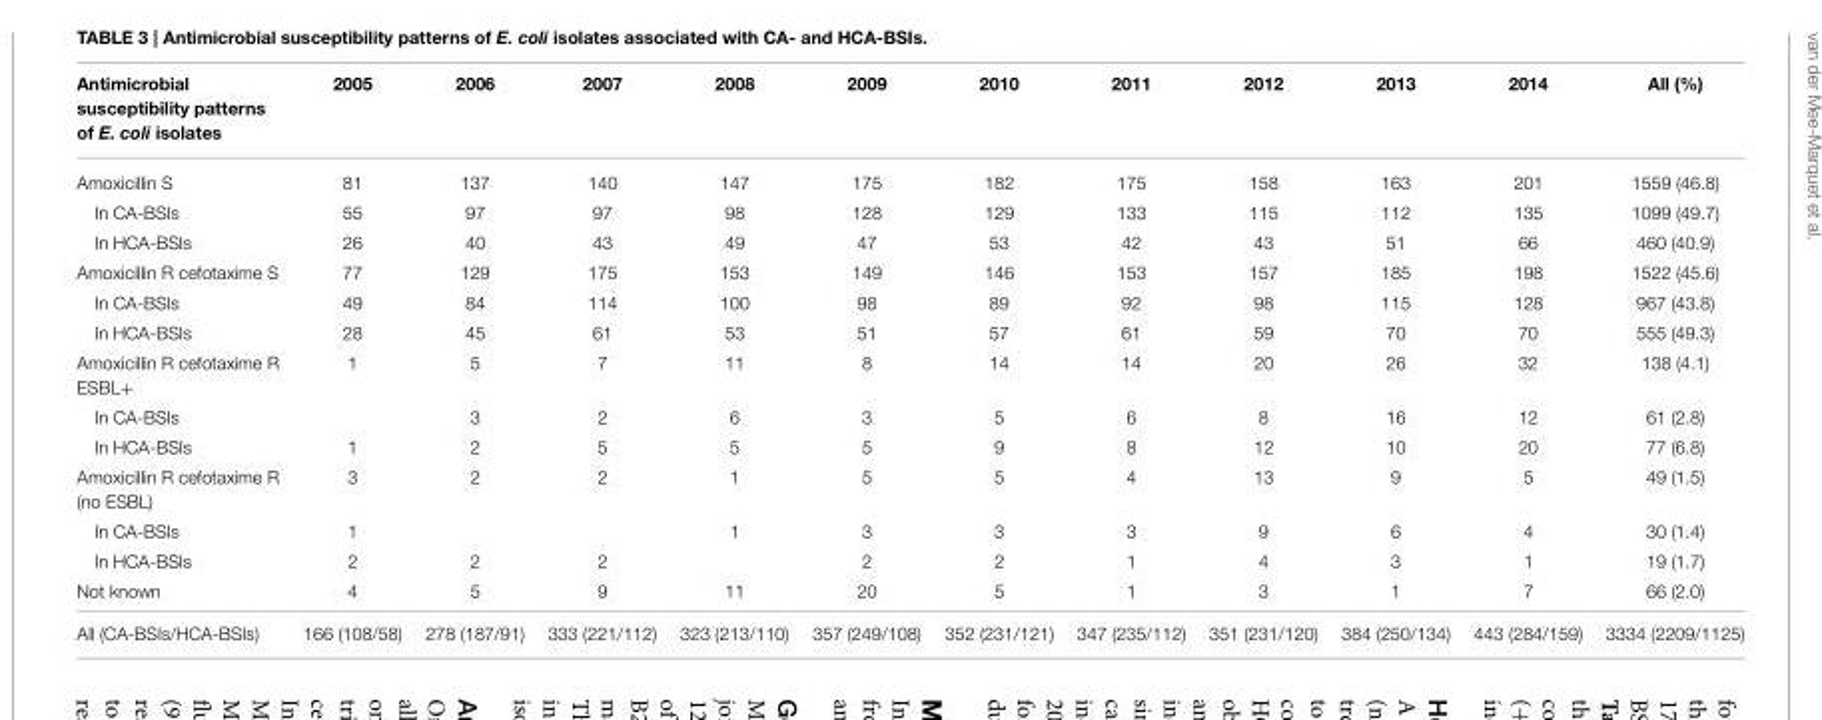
<table><thead><tr><td>Antimicrobial susceptibility patterns of E. coli isolates</td><td>2005</td><td>2006</td><td>2007</td><td>2008</td><td>2009</td><td>2010</td><td>2011</td><td>2012</td><td>2013</td><td>2014</td><td>All (%)</td></tr></thead><tbody><tr><td>Amoxicillin S</td><td>81</td><td>137</td><td>140</td><td>147</td><td>175</td><td>182</td><td>175</td><td>158</td><td>163</td><td>201</td><td>1559 (46.8)</td></tr><tr><td>In CA-BSIs</td><td>55</td><td>97</td><td>97</td><td>98</td><td>128</td><td>129</td><td>133</td><td>115</td><td>112</td><td>135</td><td>1099 (49.7)</td></tr><tr><td>In HCA-BSIs</td><td>26</td><td>40</td><td>43</td><td>49</td><td>47</td><td>53</td><td>42</td><td>43</td><td>51</td><td>66</td><td>460 (40.9)</td></tr><tr><td>Amoxicillin R cefotaxime S</td><td>77</td><td>129</td><td>175</td><td>153</td><td>149</td><td>146</td><td>153</td><td>157</td><td>185</td><td>198</td><td>1522 (45.6)</td></tr><tr><td>In CA-BSIs</td><td>49</td><td>84</td><td>114</td><td>100</td><td>98</td><td>89</td><td>92</td><td>98</td><td>115</td><td>128</td><td>967 (43.8)</td></tr><tr><td>In HCA-BSIs</td><td>28</td><td>45</td><td>61</td><td>53</td><td>51</td><td>57</td><td>61</td><td>59</td><td>70</td><td>70</td><td>555 (49.3)</td></tr><tr><td>Amoxicillin R cefotaxime R ESBL+</td><td>1</td><td>5</td><td>7</td><td>11</td><td>8</td><td>14</td><td>14</td><td>20</td><td>26</td><td>32</td><td>138 (4.1)</td></tr><tr><td>In CA-BSIs</td><td></td><td>3</td><td>2</td><td>6</td><td>3</td><td>5</td><td>6</td><td>8</td><td>16</td><td>12</td><td>61 (2.8)</td></tr><tr><td>In HCA-BSIs</td><td>1</td><td>2</td><td>5</td><td>5</td><td>5</td><td>9</td><td>8</td><td>12</td><td>10</td><td>20</td><td>77 (6.8)</td></tr><tr><td>Amoxicillin R cefotaxime R (no ESBL)</td><td>3</td><td>2</td><td>2</td><td>1</td><td>5</td><td>5</td><td>4</td><td>13</td><td>9</td><td>5</td><td>49 (1.5)</td></tr><tr><td>In CA-BSIs</td><td>1</td><td></td><td></td><td>1</td><td>3</td><td>3</td><td>3</td><td>9</td><td>6</td><td>4</td><td>30 (1.4)</td></tr><tr><td>In HCA-BSIs</td><td>2</td><td>2</td><td>2</td><td></td><td>2</td><td>2</td><td>1</td><td>4</td><td>3</td><td>1</td><td>19 (1.7)</td></tr><tr><td>Not known</td><td>4</td><td>5</td><td>9</td><td>11</td><td>20</td><td>5</td><td>1</td><td>3</td><td>1</td><td>7</td><td>66 (2.0)</td></tr><tr><td>All (CA-BSIs/HCA-BSIs)</td><td>166 (108/58)</td><td>278 (187/91)</td><td>333 (221/112)</td><td>323 (213/110)</td><td>357 (249/108)</td><td>352 (231/121)</td><td>347 (235/112)</td><td>351 (231/120)</td><td>384 (250/134)</td><td>443 (284/159)</td><td>3334 (2209/1125)</td></tr></tbody></table>